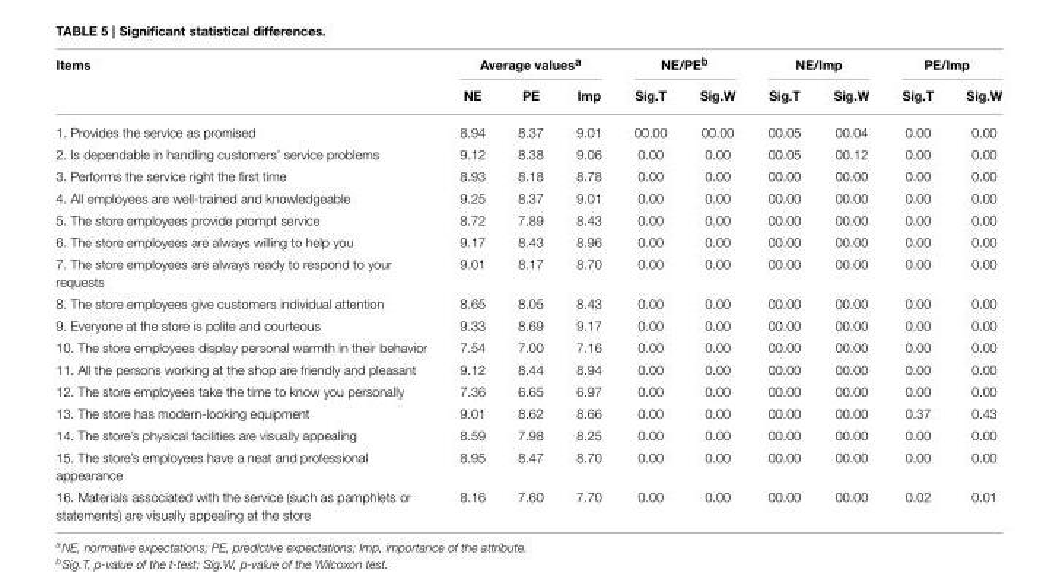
<table><thead><tr><td rowspan="2">Items</td><td colspan="3">Average values<sup>a</sup></td><td colspan="2">NE/PE<sup>b</sup></td><td colspan="2">NE/Imp</td><td colspan="2">PE/Imp</td></tr><tr><td>NE</td><td>PE</td><td>Imp</td><td>Sig.T</td><td>Sig.W</td><td>Sig.T</td><td>Sig.W</td><td>Sig.T</td><td>Sig.W</td></tr></thead><tbody><tr><td>1. Provides the service as promised</td><td>8.94</td><td>8.37</td><td>9.01</td><td>00.00</td><td>00.00</td><td>00.05</td><td>00.04</td><td>0.00</td><td>0.00</td></tr><tr><td>2. Is dependable in handling customers’ service problems</td><td>9.12</td><td>8.38</td><td>9.06</td><td>0.00</td><td>0.00</td><td>00.05</td><td>00.12</td><td>0.00</td><td>0.00</td></tr><tr><td>3. Performs the service right the first time</td><td>8.93</td><td>8.18</td><td>8.78</td><td>0.00</td><td>0.00</td><td>00.00</td><td>00.00</td><td>0.00</td><td>0.00</td></tr><tr><td>4. All employees are well-trained and knowledgeable</td><td>9.25</td><td>8.37</td><td>9.01</td><td>0.00</td><td>0.00</td><td>00.00</td><td>00.00</td><td>0.00</td><td>0.00</td></tr><tr><td>5. The store employees provide prompt service</td><td>8.72</td><td>7.89</td><td>8.43</td><td>0.00</td><td>0.00</td><td>00.00</td><td>00.00</td><td>0.00</td><td>0.00</td></tr><tr><td>6. The store employees are always willing to help you</td><td>9.17</td><td>8.43</td><td>8.96</td><td>0.00</td><td>0.00</td><td>00.00</td><td>00.00</td><td>0.00</td><td>0.00</td></tr><tr><td>7. The store employees are always ready to respond to your requests</td><td>9.01</td><td>8.17</td><td>8.70</td><td>0.00</td><td>0.00</td><td>00.00</td><td>00.00</td><td>0.00</td><td>0.00</td></tr><tr><td>8. The store employees give customers individual attention</td><td>8.65</td><td>8.05</td><td>8.43</td><td>0.00</td><td>0.00</td><td>00.00</td><td>00.00</td><td>0.00</td><td>0.00</td></tr><tr><td>9. Everyone at the store is polite and courteous</td><td>9.33</td><td>8.69</td><td>9.17</td><td>0.00</td><td>0.00</td><td>00.00</td><td>00.00</td><td>0.00</td><td>0.00</td></tr><tr><td>10. The store employees display personal warmth in their behavior</td><td>7.54</td><td>7.00</td><td>7.16</td><td>0.00</td><td>0.00</td><td>00.00</td><td>00.00</td><td>0.00</td><td>0.00</td></tr><tr><td>11. All the persons working at the shop are friendly and pleasant</td><td>9.12</td><td>8.44</td><td>8.94</td><td>0.00</td><td>0.00</td><td>00.00</td><td>00.00</td><td>0.00</td><td>0.00</td></tr><tr><td>12. The store employees take the time to know you personally</td><td>7.36</td><td>6.65</td><td>6.97</td><td>0.00</td><td>0.00</td><td>00.00</td><td>00.00</td><td>0.00</td><td>0.00</td></tr><tr><td>13. The store has modern-looking equipment</td><td>9.01</td><td>8.62</td><td>8.66</td><td>0.00</td><td>0.00</td><td>00.00</td><td>00.00</td><td>0.37</td><td>0.43</td></tr><tr><td>14. The store’s physical facilities are visually appealing</td><td>8.59</td><td>7.98</td><td>8.25</td><td>0.00</td><td>0.00</td><td>00.00</td><td>00.00</td><td>0.00</td><td>0.00</td></tr><tr><td>15. The store’s employees have a neat and professional appearance</td><td>8.95</td><td>8.47</td><td>8.70</td><td>0.00</td><td>0.00</td><td>00.00</td><td>00.00</td><td>0.00</td><td>0.00</td></tr><tr><td>16. Materials associated with the service (such as pamphlets or statements) are visually appealing at the store</td><td>8.16</td><td>7.60</td><td>7.70</td><td>0.00</td><td>0.00</td><td>00.00</td><td>00.00</td><td>0.02</td><td>0.01</td></tr></tbody></table>